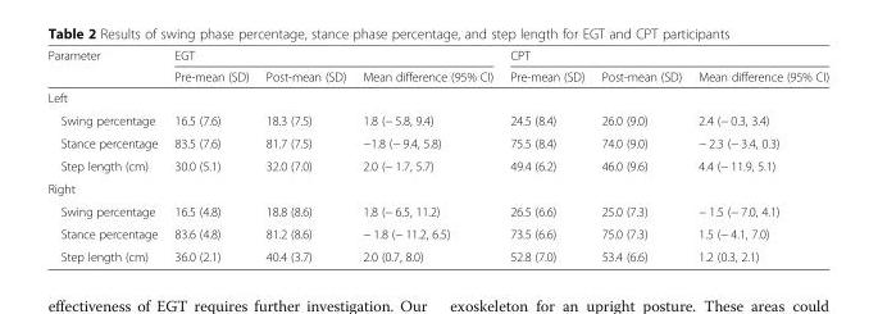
<table><thead><tr><td rowspan="2">Parameter</td><td colspan="3">EGT</td><td colspan="3">CPT</td></tr><tr><td>Pre-mean (SD)</td><td>Post-mean (SD)</td><td>Mean difference (95% CI)</td><td>Pre-mean (SD)</td><td>Post-mean (SD)</td><td>Mean difference (95% CI)</td></tr></thead><tbody><tr><td colspan="7">Left</td></tr><tr><td>Swing percentage</td><td>16.5 (7.6)</td><td>18.3 (7.5)</td><td>1.8 (− 5.8, 9.4)</td><td>24.5 (8.4)</td><td>26.0 (9.0)</td><td>2.4 (− 0.3, 3.4)</td></tr><tr><td>Stance percentage</td><td>83.5 (7.6)</td><td>81.7 (7.5)</td><td>−1.8 (− 9.4, 5.8)</td><td>75.5 (8.4)</td><td>74.0 (9.0)</td><td>− 2.3 (− 3.4, 0.3)</td></tr><tr><td>Step length (cm)</td><td>30.0 (5.1)</td><td>32.0 (7.0)</td><td>2.0 (− 1.7, 5.7)</td><td>49.4 (6.2)</td><td>46.0 (9.6)</td><td>4.4 (− 11.9, 5.1)</td></tr><tr><td colspan="7">Right</td></tr><tr><td>Swing percentage</td><td>16.5 (4.8)</td><td>18.8 (8.6)</td><td>1.8 (− 6.5, 11.2)</td><td>26.5 (6.6)</td><td>25.0 (7.3)</td><td>− 1.5 (− 7.0, 4.1)</td></tr><tr><td>Stance percentage</td><td>83.6 (4.8)</td><td>81.2 (8.6)</td><td>− 1.8 (− 11.2, 6.5)</td><td>73.5 (6.6)</td><td>75.0 (7.3)</td><td>1.5 (− 4.1, 7.0)</td></tr><tr><td>Step length (cm)</td><td>36.0 (2.1)</td><td>40.4 (3.7)</td><td>2.0 (0.7, 8.0)</td><td>52.8 (7.0)</td><td>53.4 (6.6)</td><td>1.2 (0.3, 2.1)</td></tr></tbody></table>